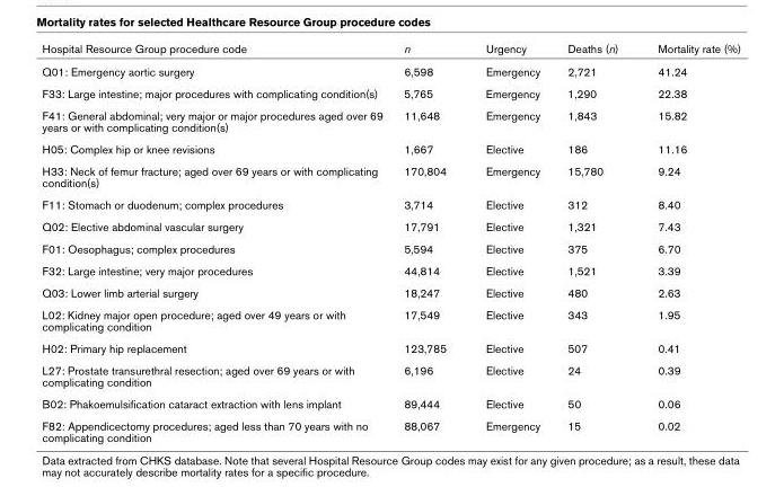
<table><thead><tr><td>Hospital Resource Group procedure code</td><td>n</td><td>Urgency</td><td>Deaths (n)</td><td>Mortality rate (%)</td></tr></thead><tbody><tr><td>Q01: Emergency aortic surgery</td><td>6,598</td><td>Emergency</td><td>2,721</td><td>41.24</td></tr><tr><td>F33: Large intestine; major procedures with complicating condition(s)</td><td>5,765</td><td>Emergency</td><td>1,290</td><td>22.38</td></tr><tr><td>F41: General abdominal; very major or major procedures aged over 69 years or with complicating condition(s)</td><td>11,648</td><td>Emergency</td><td>1,843</td><td>15.82</td></tr><tr><td>H05: Complex hip or knee revisions</td><td>1,667</td><td>Elective</td><td>186</td><td>11.16</td></tr><tr><td>H33: Neck of femur fracture; aged over 69 years or with complicating condition(s)</td><td>170,804</td><td>Emergency</td><td>15,780</td><td>9.24</td></tr><tr><td>F11: Stomach or duodenum; complex procedures</td><td>3,714</td><td>Elective</td><td>312</td><td>8.40</td></tr><tr><td>Q02: Elective abdominal vascular surgery</td><td>17,791</td><td>Elective</td><td>1,321</td><td>7.43</td></tr><tr><td>F01: Oesophagus; complex procedures</td><td>5,594</td><td>Elective</td><td>375</td><td>6.70</td></tr><tr><td>F32: Large intestine; very major procedures</td><td>44,814</td><td>Elective</td><td>1,521</td><td>3.39</td></tr><tr><td>Q03: Lower limb arterial surgery</td><td>18,247</td><td>Elective</td><td>480</td><td>2.63</td></tr><tr><td>L02: Kidney major open procedure; aged over 49 years or with complicating condition</td><td>17,549</td><td>Elective</td><td>343</td><td>1.95</td></tr><tr><td>H02: Primary hip replacement</td><td>123,785</td><td>Elective</td><td>507</td><td>0.41</td></tr><tr><td>L27: Prostate transurethral resection; aged over 69 years or with complicating condition</td><td>6,196</td><td>Elective</td><td>24</td><td>0.39</td></tr><tr><td>B02: Phakoemulsification cataract extraction with lens implant</td><td>89,444</td><td>Elective</td><td>50</td><td>0.06</td></tr><tr><td>F82: Appendicectomy procedures; aged less than 70 years with no complicating condition</td><td>88,067</td><td>Emergency</td><td>15</td><td>0.02</td></tr></tbody></table>